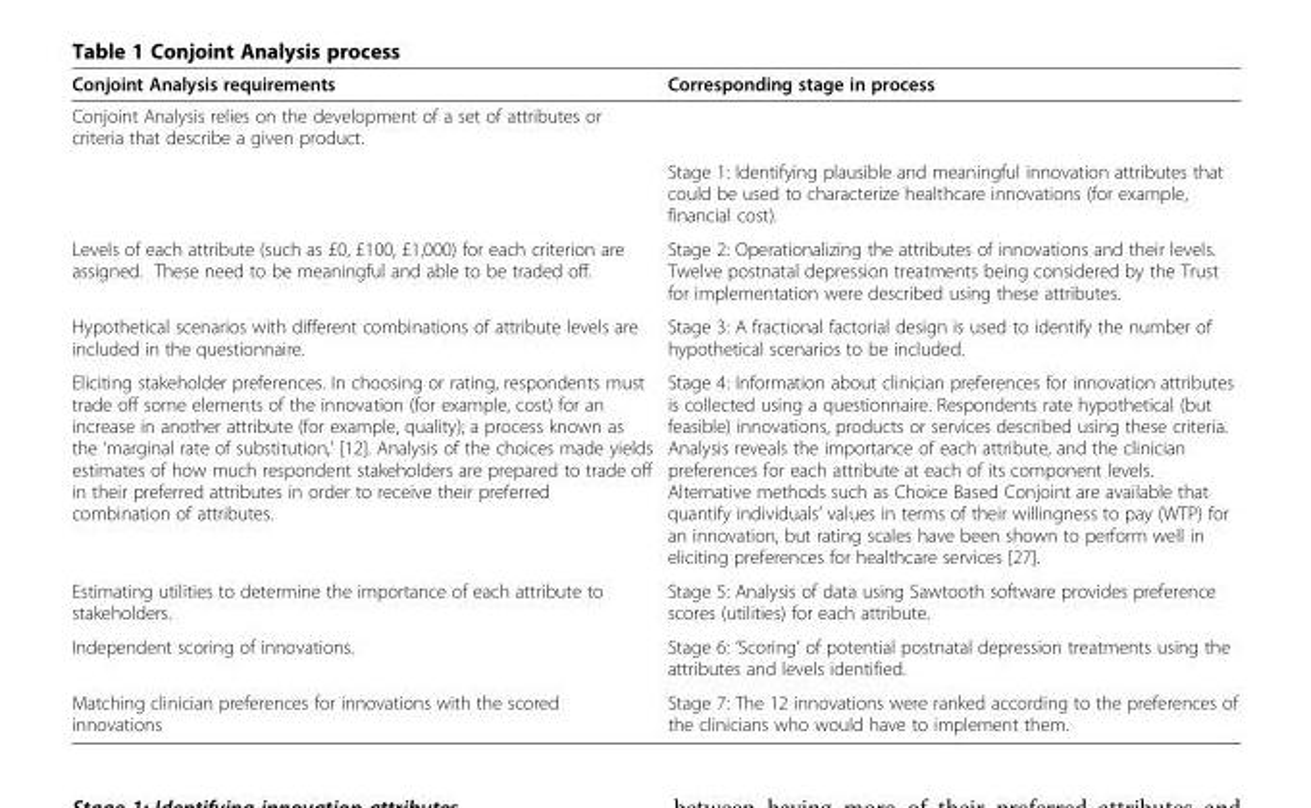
<table><thead><tr><td>Conjoint Analysis requirements</td><td>Corresponding stage in process</td></tr></thead><tbody><tr><td colspan="2">Conjoint Analysis relies on the development of a set of attributes or criteria that describe a given product.</td></tr><tr><td></td><td>Stage 1: Identifying plausible and meaningful innovation attributes that could be used to characterize healthcare innovations (for example, financial cost).</td></tr><tr><td>Levels of each attribute (such as £0, £100, £1,000) for each criterion are assigned. These need to be meaningful and able to be traded off.</td><td>Stage 2: Operationalizing the attributes of innovations and their levels. Twelve postnatal depression treatments being considered by the Trust for implementation were described using these attributes.</td></tr><tr><td>Hypothetical scenarios with different combinations of attribute levels are included in the questionnaire.</td><td>Stage 3: A fractional factorial design is used to identify the number of hypothetical scenarios to be included.</td></tr><tr><td>Eliciting stakeholder preferences. In choosing or rating, respondents must trade off some elements of the innovation (for example, cost) for an increase in another attribute (for example, quality); a process known as the ‘marginal rate of substitution,’ [12]. Analysis of the choices made yields estimates of how much respondent stakeholders are prepared to trade off in their preferred attributes in order to receive their preferred combination of attributes.</td><td>Stage 4: Information about clinician preferences for innovation attributes is collected using a questionnaire. Respondents rate hypothetical (but feasible) innovations, products or services described using these criteria. Analysis reveals the importance of each attribute, and the clinician preferences for each attribute at each of its component levels. Alternative methods such as Choice Based Conjoint are available that quantify individuals’ values in terms of their willingness to pay (WTP) for an innovation, but rating scales have been shown to perform well in eliciting preferences for healthcare services [27].</td></tr><tr><td>Estimating utilities to determine the importance of each attribute to stakeholders.</td><td>Stage 5: Analysis of data using Sawtooth software provides preference scores (utilities) for each attribute.</td></tr><tr><td>Independent scoring of innovations.</td><td>Stage 6: ‘Scoring’ of potential postnatal depression treatments using the attributes and levels identified.</td></tr><tr><td>Matching clinician preferences for innovations with the scored innovations</td><td>Stage 7: The 12 innovations were ranked according to the preferences of the clinicians who would have to implement them.</td></tr></tbody></table>